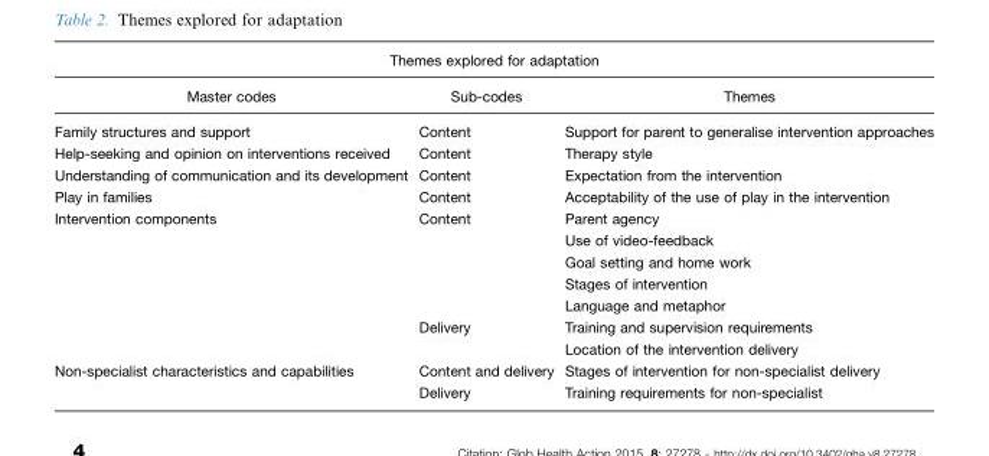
<table><thead><tr><td colspan="3">Themes explored for adaptation</td></tr><tr><td>Master codes</td><td>Sub-codes</td><td>Themes</td></tr></thead><tbody><tr><td>Family structures and support</td><td>Content</td><td>Support for parent to generalise intervention approaches</td></tr><tr><td>Help-seeking and opinion on interventions received</td><td>Content</td><td>Therapy style</td></tr><tr><td>Understanding of communication and its development</td><td>Content</td><td>Expectation from the intervention</td></tr><tr><td>Play in families</td><td>Content</td><td>Acceptability of the use of play in the intervention</td></tr><tr><td rowspan="7">Intervention components</td><td>Content</td><td>Parent agency</td></tr><tr><td></td><td>Use of video-feedback</td></tr><tr><td></td><td>Goal setting and home work</td></tr><tr><td></td><td>Stages of intervention</td></tr><tr><td></td><td>Language and metaphor</td></tr><tr><td>Delivery</td><td>Training and supervision requirements</td></tr><tr><td></td><td>Location of the intervention delivery</td></tr><tr><td rowspan="2">Non-specialist characteristics and capabilities</td><td>Content and delivery</td><td>Stages of intervention for non-specialist delivery</td></tr><tr><td>Delivery</td><td>Training requirements for non-specialist</td></tr></tbody></table>